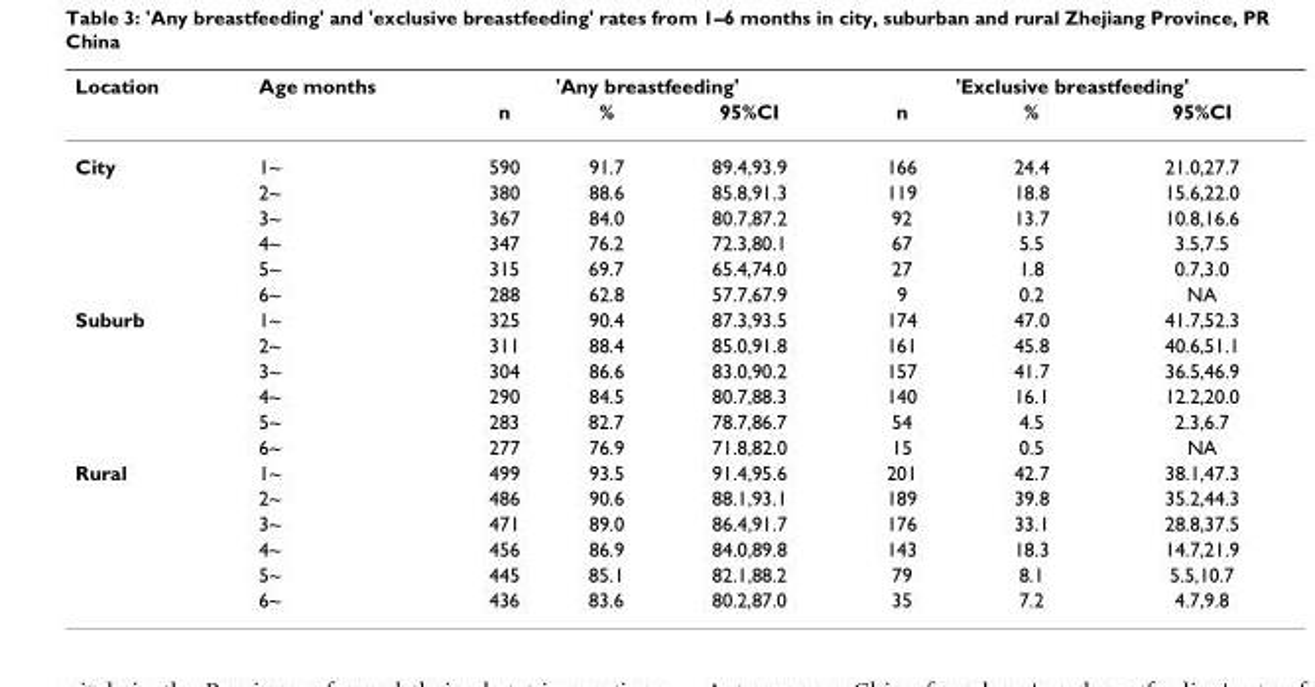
<table><thead><tr><td rowspan="2">Location</td><td rowspan="2">Age months</td><td colspan="3">&#x27;Any breastfeeding&#x27;</td><td colspan="3">&#x27;Exclusive breastfeeding&#x27;</td></tr><tr><td>n</td><td>%</td><td>95%CI</td><td>n</td><td>%</td><td>95%CI</td></tr></thead><tbody><tr><td rowspan="6">City</td><td>1~</td><td>590</td><td>91.7</td><td>89.4,93.9</td><td>166</td><td>24.4</td><td>21.0,27.7</td></tr><tr><td>2~</td><td>380</td><td>88.6</td><td>85.8,91.3</td><td>119</td><td>18.8</td><td>15.6,22.0</td></tr><tr><td>3~</td><td>367</td><td>84.0</td><td>80.7,87.2</td><td>92</td><td>13.7</td><td>10.8,16.6</td></tr><tr><td>4~</td><td>347</td><td>76.2</td><td>72.3,80.1</td><td>67</td><td>5.5</td><td>3.5,7.5</td></tr><tr><td>5~</td><td>315</td><td>69.7</td><td>65.4,74.0</td><td>27</td><td>1.8</td><td>0.7,3.0</td></tr><tr><td>6~</td><td>288</td><td>62.8</td><td>57.7,67.9</td><td>9</td><td>0.2</td><td>NA</td></tr><tr><td rowspan="6">Suburb</td><td>1~</td><td>325</td><td>90.4</td><td>87.3,93.5</td><td>174</td><td>47.0</td><td>41.7,52.3</td></tr><tr><td>2~</td><td>311</td><td>88.4</td><td>85.0,91.8</td><td>161</td><td>45.8</td><td>40.6,51.1</td></tr><tr><td>3~</td><td>304</td><td>86.6</td><td>83.0,90.2</td><td>157</td><td>41.7</td><td>36.5,46.9</td></tr><tr><td>4~</td><td>290</td><td>84.5</td><td>80.7,88.3</td><td>140</td><td>16.1</td><td>12.2,20.0</td></tr><tr><td>5~</td><td>283</td><td>82.7</td><td>78.7,86.7</td><td>54</td><td>4.5</td><td>2.3,6.7</td></tr><tr><td>6~</td><td>277</td><td>76.9</td><td>71.8,82.0</td><td>15</td><td>0.5</td><td>NA</td></tr><tr><td rowspan="6">Rural</td><td>1~</td><td>499</td><td>93.5</td><td>91.4,95.6</td><td>201</td><td>42.7</td><td>38.1,47.3</td></tr><tr><td>2~</td><td>486</td><td>90.6</td><td>88.1,93.1</td><td>189</td><td>39.8</td><td>35.2,44.3</td></tr><tr><td>3~</td><td>471</td><td>89.0</td><td>86.4,91.7</td><td>176</td><td>33.1</td><td>28.8,37.5</td></tr><tr><td>4~</td><td>456</td><td>86.9</td><td>84.0,89.8</td><td>143</td><td>18.3</td><td>14.7,21.9</td></tr><tr><td>5~</td><td>445</td><td>85.1</td><td>82.1,88.2</td><td>79</td><td>8.1</td><td>5.5,10.7</td></tr><tr><td>6~</td><td>436</td><td>83.6</td><td>80.2,87.0</td><td>35</td><td>7.2</td><td>4.7,9.8</td></tr></tbody></table>